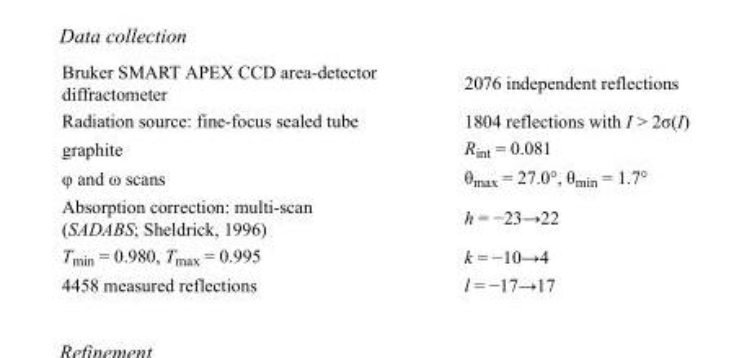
<table><tbody><tr><td>Bruker SMART APEX CCD area-detector diffractometer</td><td>2076 independent reflections</td></tr><tr><td>Radiation source: fine-focus sealed tube</td><td>1804 reflections with I &gt; 2σ(I)</td></tr><tr><td>graphite</td><td>R<sub>int</sub> = 0.081</td></tr><tr><td>φ and ω scans</td><td>θ<sub>max</sub> = 27.0°, θ<sub>min</sub> = 1.7°</td></tr><tr><td>Absorption correction: multi-scan (SADABS; Sheldrick, 1996)</td><td>h = −23→22</td></tr><tr><td>T<sub>min</sub> = 0.980, T<sub>max</sub> = 0.995</td><td>k = −10→4</td></tr><tr><td>4458 measured reflections</td><td>l = −17→17</td></tr></tbody></table>